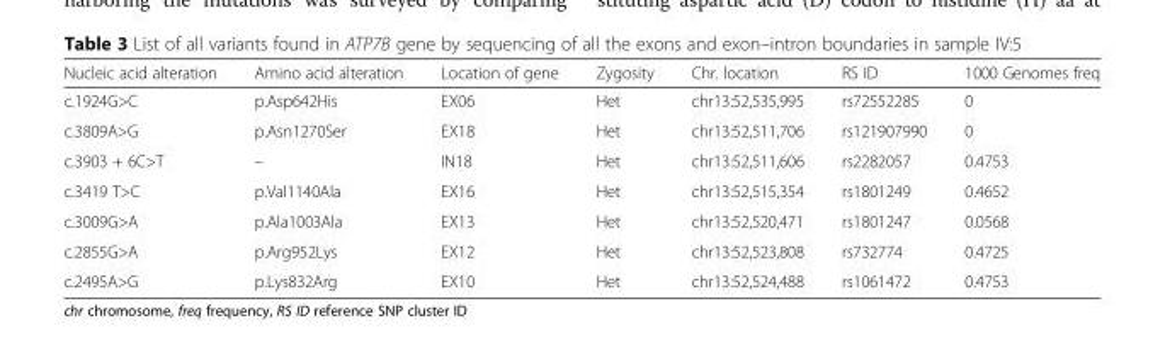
<table><thead><tr><td>Nucleic acid alteration</td><td>Amino acid alteration</td><td>Location of gene</td><td>Zygosity</td><td>Chr. location</td><td>RS ID</td><td>1000 Genomes freq</td></tr></thead><tbody><tr><td>c.1924G&gt;C</td><td>p.Asp642His</td><td>EX06</td><td>Het</td><td>chr13:52,535,995</td><td>rs72552285</td><td>0</td></tr><tr><td>c.3809A&gt;G</td><td>p.Asn1270Ser</td><td>EX18</td><td>Het</td><td>chr13:52,511,706</td><td>rs121907990</td><td>0</td></tr><tr><td>c.3903 + 6C&gt;T</td><td>–</td><td>IN18</td><td>Het</td><td>chr13:52,511,606</td><td>rs2282057</td><td>0.4753</td></tr><tr><td>c.3419 T&gt;C</td><td>p.Val1140Ala</td><td>EX16</td><td>Het</td><td>chr13:52,515,354</td><td>rs1801249</td><td>0.4652</td></tr><tr><td>c.3009G&gt;A</td><td>p.Ala1003Ala</td><td>EX13</td><td>Het</td><td>chr13:52,520,471</td><td>rs1801247</td><td>0.0568</td></tr><tr><td>c.2855G&gt;A</td><td>p.Arg952Lys</td><td>EX12</td><td>Het</td><td>chr13:52,523,808</td><td>rs732774</td><td>0.4725</td></tr><tr><td>c.2495A&gt;G</td><td>p.Lys832Arg</td><td>EX10</td><td>Het</td><td>chr13:52,524,488</td><td>rs1061472</td><td>0.4753</td></tr></tbody></table>